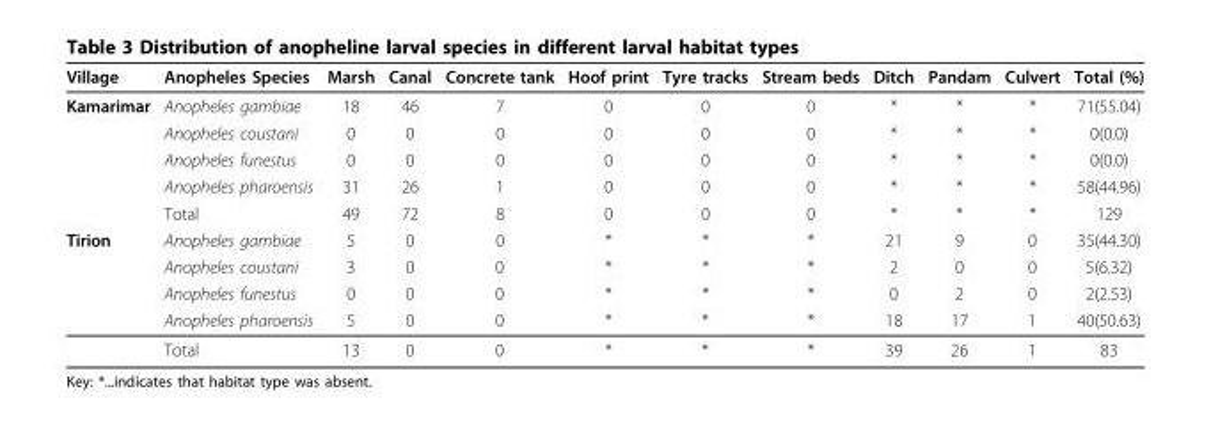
<table><thead><tr><td>Village</td><td>Anopheles Species</td><td>Marsh</td><td>Canal</td><td>Concrete tank</td><td>Hoof print</td><td>Tyre tracks</td><td>Stream beds</td><td>Ditch</td><td>Pandam</td><td>Culvert</td><td>Total (%)</td></tr></thead><tbody><tr><td rowspan="5">Kamarimar</td><td>Anopheles gambiae</td><td>18</td><td>46</td><td>7</td><td>0</td><td>0</td><td>0</td><td>*</td><td>*</td><td>*</td><td>71(55.04)</td></tr><tr><td>Anopheles coustani</td><td>0</td><td>0</td><td>0</td><td>0</td><td>0</td><td>0</td><td>*</td><td>*</td><td>*</td><td>0(0.0)</td></tr><tr><td>Anopheles funestus</td><td>0</td><td>0</td><td>0</td><td>0</td><td>0</td><td>0</td><td>*</td><td>*</td><td>*</td><td>0(0.0)</td></tr><tr><td>Anopheles pharoensis</td><td>31</td><td>26</td><td>1</td><td>0</td><td>0</td><td>0</td><td>*</td><td>*</td><td>*</td><td>58(44.96)</td></tr><tr><td>Total</td><td>49</td><td>72</td><td>8</td><td>0</td><td>0</td><td>0</td><td>*</td><td>*</td><td>*</td><td>129</td></tr><tr><td rowspan="5">Tirion</td><td>Anopheles gambiae</td><td>5</td><td>0</td><td>0</td><td>*</td><td>*</td><td>*</td><td>21</td><td>9</td><td>0</td><td>35(44.30)</td></tr><tr><td>Anopheles coustani</td><td>3</td><td>0</td><td>0</td><td>*</td><td>*</td><td>*</td><td>2</td><td>0</td><td>0</td><td>5(6.32)</td></tr><tr><td>Anopheles funestus</td><td>0</td><td>0</td><td>0</td><td>*</td><td>*</td><td>*</td><td>0</td><td>2</td><td>0</td><td>2(2.53)</td></tr><tr><td>Anopheles pharoensis</td><td>5</td><td>0</td><td>0</td><td>*</td><td>*</td><td>*</td><td>18</td><td>17</td><td>1</td><td>40(50.63)</td></tr><tr><td>Total</td><td>13</td><td>0</td><td>0</td><td>*</td><td>*</td><td>*</td><td>39</td><td>26</td><td>1</td><td>83</td></tr></tbody></table>